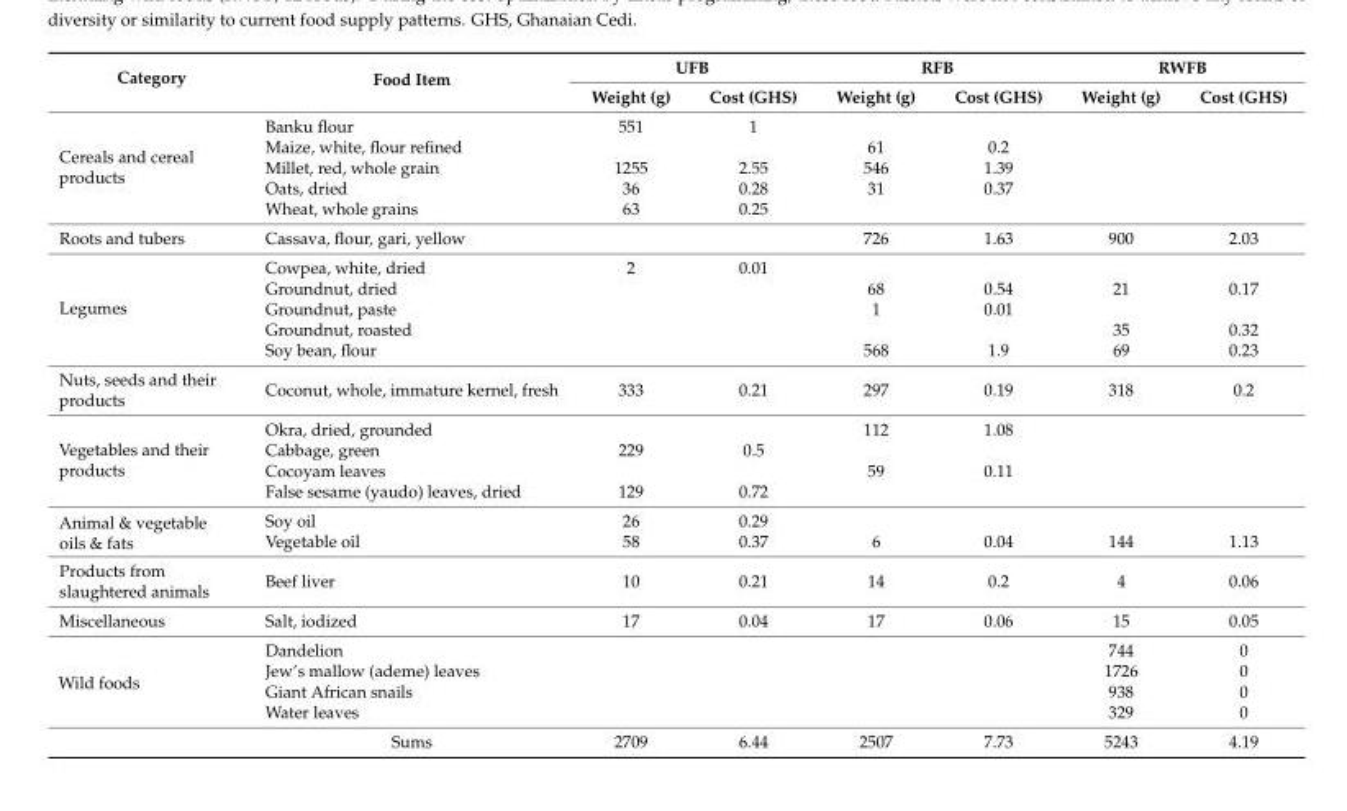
<table><thead><tr><td rowspan="2">Category</td><td rowspan="2">Food Item</td><td colspan="2">UFB</td><td colspan="2">RFB</td><td colspan="2">RWFB</td></tr><tr><td>Weight (g)</td><td>Cost (GHS)</td><td>Weight (g)</td><td>Cost (GHS)</td><td>Weight (g)</td><td>Cost (GHS)</td></tr></thead><tbody><tr><td rowspan="5">Cereals and cereal products</td><td>Banku flour</td><td>551</td><td>1</td><td></td><td></td><td></td><td></td></tr><tr><td>Maize, white, flour refined</td><td></td><td></td><td>61</td><td>0.2</td><td></td><td></td></tr><tr><td>Millet, red, whole grain</td><td>1255</td><td>2.55</td><td>546</td><td>1.39</td><td></td><td></td></tr><tr><td>Oats, dried</td><td>36</td><td>0.28</td><td>31</td><td>0.37</td><td></td><td></td></tr><tr><td>Wheat, whole grains</td><td>63</td><td>0.25</td><td></td><td></td><td></td><td></td></tr><tr><td>Roots and tubers</td><td>Cassava, flour, gari, yellow</td><td></td><td></td><td>726</td><td>1.63</td><td>900</td><td>2.03</td></tr><tr><td rowspan="5">Legumes</td><td>Cowpea, white, dried</td><td>2</td><td>0.01</td><td></td><td></td><td></td><td></td></tr><tr><td>Groundnut, dried</td><td></td><td></td><td>68</td><td>0.54</td><td>21</td><td>0.17</td></tr><tr><td>Groundnut, paste</td><td></td><td></td><td>1</td><td>0.01</td><td></td><td></td></tr><tr><td>Groundnut, roasted</td><td></td><td></td><td></td><td></td><td>35</td><td>0.32</td></tr><tr><td>Soy bean, flour</td><td></td><td></td><td>568</td><td>1.9</td><td>69</td><td>0.23</td></tr><tr><td>Nuts, seeds and their products</td><td>Coconut, whole, immature kernel, fresh</td><td>333</td><td>0.21</td><td>297</td><td>0.19</td><td>318</td><td>0.2</td></tr><tr><td rowspan="4">Vegetables and their products</td><td>Okra, dried, grounded</td><td></td><td></td><td>112</td><td>1.08</td><td></td><td></td></tr><tr><td>Cabbage, green</td><td>229</td><td>0.5</td><td></td><td></td><td></td><td></td></tr><tr><td>Cocoyam leaves</td><td></td><td></td><td>59</td><td>0.11</td><td></td><td></td></tr><tr><td>False sesame (yaudo) leaves, dried</td><td>129</td><td>0.72</td><td></td><td></td><td></td><td></td></tr><tr><td rowspan="2">Animal &amp; vegetable oils &amp; fats</td><td>Soy oil</td><td>26</td><td>0.29</td><td></td><td></td><td></td><td></td></tr><tr><td>Vegetable oil</td><td>58</td><td>0.37</td><td>6</td><td>0.04</td><td>144</td><td>1.13</td></tr><tr><td>Products from slaughtered animals</td><td>Beef liver</td><td>10</td><td>0.21</td><td>14</td><td>0.2</td><td>4</td><td>0.06</td></tr><tr><td>Miscellaneous</td><td>Salt, iodized</td><td>17</td><td>0.04</td><td>17</td><td>0.06</td><td>15</td><td>0.05</td></tr><tr><td rowspan="5">Wild foods</td><td>Dandelion</td><td></td><td></td><td></td><td></td><td>744</td><td>0</td></tr><tr><td>Jew’s mallow (ademe) leaves</td><td></td><td></td><td></td><td></td><td>1726</td><td>0</td></tr><tr><td>Giant African snails</td><td></td><td></td><td></td><td></td><td>938</td><td>0</td></tr><tr><td>Water leaves</td><td></td><td></td><td></td><td></td><td>329</td><td>0</td></tr><tr><td>Sums</td><td>2709</td><td>6.44</td><td>2507</td><td>7.73</td><td>5243</td><td>4.19</td></tr></tbody></table>